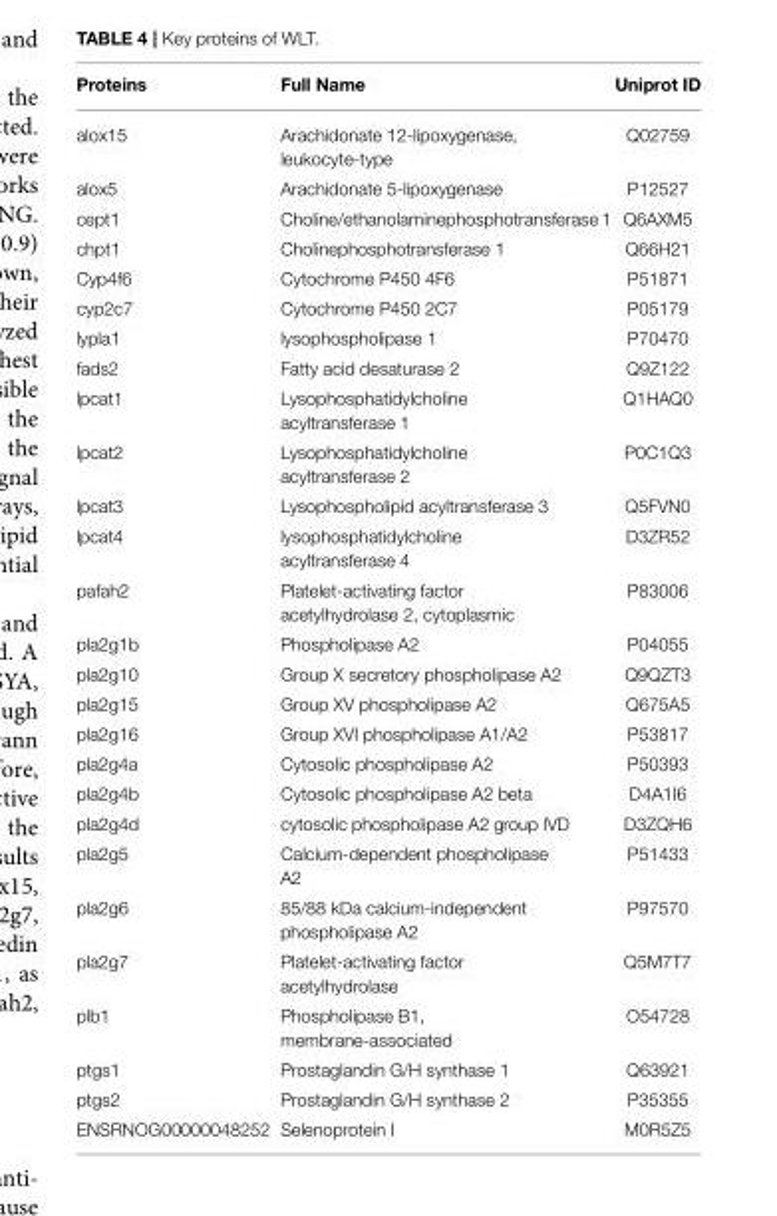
<table><thead><tr><td>Proteins</td><td>Full Name</td><td>Uniprot ID</td></tr></thead><tbody><tr><td>alox15</td><td>Arachidonate 12-lipoxygenase, leukocyte-type</td><td>Q02759</td></tr><tr><td>alox5</td><td>Arachidonate 5-lipoxygenase</td><td>P12527</td></tr><tr><td>cept1</td><td>Choline/ethanolaminephosphotransferase 1</td><td>Q6AXM5</td></tr><tr><td>chpt1</td><td>Cholinephosphotransferase 1</td><td>Q66H21</td></tr><tr><td>Cyp4f6</td><td>Cytochrome P450 4F6</td><td>P51871</td></tr><tr><td>cyp2c7</td><td>Cytochrome P450 2C7</td><td>P05179</td></tr><tr><td>lypla1</td><td>lysophospholipase 1</td><td>P70470</td></tr><tr><td>fads2</td><td>Fatty acid desaturase 2</td><td>Q9Z122</td></tr><tr><td>lpcat1</td><td>Lysophosphatidylcholine acyltransferase 1</td><td>Q1HAQ0</td></tr><tr><td>lpcat2</td><td>Lysophosphatidylcholine acyltransferase 2</td><td>P0C1Q3</td></tr><tr><td>lpcat3</td><td>Lysophospholipid acyltransferase 3</td><td>Q5FVN0</td></tr><tr><td>lpcat4</td><td>lysophosphatidylcholine acyltransferase 4</td><td>D3ZR52</td></tr><tr><td>pafah2</td><td>Platelet-activating factor acetylhydrolase 2, cytoplasmic</td><td>P83006</td></tr><tr><td>pla2g1b</td><td>Phospholipase A2</td><td>P04055</td></tr><tr><td>pla2g10</td><td>Group X secretory phospholipase A2</td><td>Q9QZT3</td></tr><tr><td>pla2g15</td><td>Group XV phospholipase A2</td><td>Q675A5</td></tr><tr><td>pla2g16</td><td>Group XVI phospholipase A1/A2</td><td>P53817</td></tr><tr><td>pla2g4a</td><td>Cytosolic phospholipase A2</td><td>P50393</td></tr><tr><td>pla2g4b</td><td>Cytosolic phospholipase A2 beta</td><td>D4A1I6</td></tr><tr><td>pla2g4d</td><td>cytosolic phospholipase A2 group IVD</td><td>D3ZQH6</td></tr><tr><td>pla2g5</td><td>Calcium-dependent phospholipase A2</td><td>P51433</td></tr><tr><td>pla2g6</td><td>85/88 kDa calcium-independent phospholipase A2</td><td>P97570</td></tr><tr><td>pla2g7</td><td>Platelet-activating factor acetylhydrolase</td><td>Q5M7T7</td></tr><tr><td>plb1</td><td>Phospholipase B1, membrane-associated</td><td>O54728</td></tr><tr><td>ptgs1</td><td>Prostaglandin G/H synthase 1</td><td>Q63921</td></tr><tr><td>ptgs2</td><td>Prostaglandin G/H synthase 2</td><td>P35355</td></tr><tr><td>ENSRNOG00000048252</td><td>Selenoprotein I</td><td>M0R5Z5</td></tr></tbody></table>